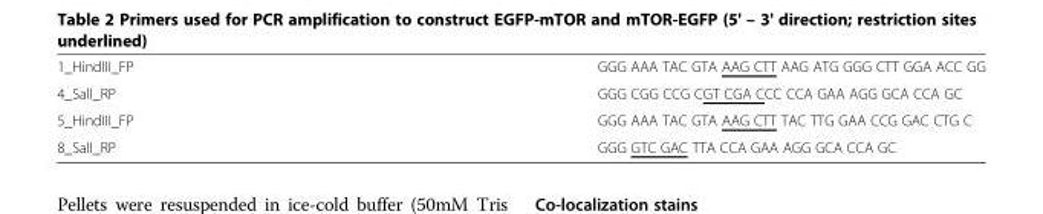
<table><tbody><tr><td>1_HindIII_FP</td><td>GGG AAA TAC GTA AAG CTT AAG ATG GGG CTT GGA ACC GG</td></tr><tr><td>4_SalI_RP</td><td>GGG CGG CCG CGT CGA CCC CCA GAA AGG GCA CCA GC</td></tr><tr><td>5_HindIII_FP</td><td>GGG AAA TAC GTA AAG CTT TAC TTG GAA CCG GAC CTG C</td></tr><tr><td>8_SalI_RP</td><td>GGG GTC GAC TTA CCA GAA AGG GCA CCA GC</td></tr></tbody></table>